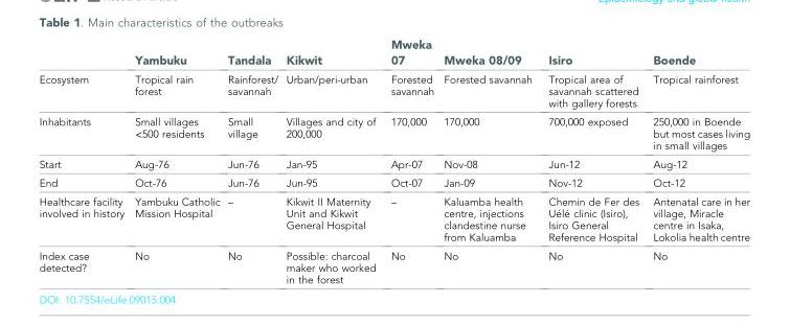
<table><thead><tr><td></td><td>Yambuku</td><td>Tandala</td><td>Kikwit</td><td>Mweka 07</td><td>Mweka 08/09</td><td>Isiro</td><td>Boende</td></tr></thead><tbody><tr><td>Ecosystem</td><td>Tropical rain forest</td><td>Rainforest/ savannah</td><td>Urban/peri-urban</td><td>Forested savannah</td><td>Forested savannah</td><td>Tropical area of savannah scattered with gallery forests</td><td>Tropical rainforest</td></tr><tr><td>Inhabitants</td><td>Small villages &lt;500 residents</td><td>Small village</td><td>Villages and city of 200,000</td><td>170,000</td><td>170,000</td><td>700,000 exposed</td><td>250,000 in Boende but most cases living in small villages</td></tr><tr><td>Start</td><td>Aug-76</td><td>Jun-76</td><td>Jan-95</td><td>Apr-07</td><td>Nov-08</td><td>Jun-12</td><td>Aug-12</td></tr><tr><td>End</td><td>Oct-76</td><td>Jun-76</td><td>Jun-95</td><td>Oct-07</td><td>Jan-09</td><td>Nov-12</td><td>Oct-12</td></tr><tr><td>Healthcare facility involved in history</td><td>Yambuku Catholic Mission Hospital</td><td>–</td><td>Kikwit II Maternity Unit and Kikwit General Hospital</td><td>–</td><td>Kaluamba health centre, injections clandestine nurse from Kaluamba</td><td>Chemin de Fer des U ´el ´e clinic (Isiro), Isiro General Reference Hospital</td><td>Antenatal care in her village, Miracle centre in Isaka, Lokolia health centre</td></tr><tr><td>Index case detected?</td><td>No</td><td>No</td><td>Possible: charcoal maker who worked in the forest</td><td>No</td><td>No</td><td>No</td><td>No</td></tr></tbody></table>